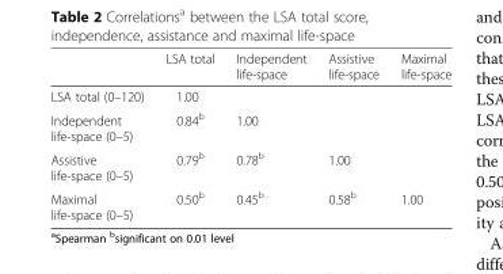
<table><thead><tr><td></td><td>LSA total</td><td>Independent life-space</td><td>Assistive life-space</td><td>Maximal life-space</td></tr></thead><tbody><tr><td>LSA total (0–120)</td><td>1.00</td><td></td><td></td><td></td></tr><tr><td>Independent life-space (0–5)</td><td>0.84<sup>b</sup></td><td>1.00</td><td></td><td></td></tr><tr><td>Assistive life-space (0–5)</td><td>0.79<sup>b</sup></td><td>0.78<sup>b</sup></td><td>1.00</td><td></td></tr><tr><td>Maximal life-space (0–5)</td><td>0.50<sup>b</sup></td><td>0.45<sup>b</sup></td><td>0.58<sup>b</sup></td><td>1.00</td></tr></tbody></table>